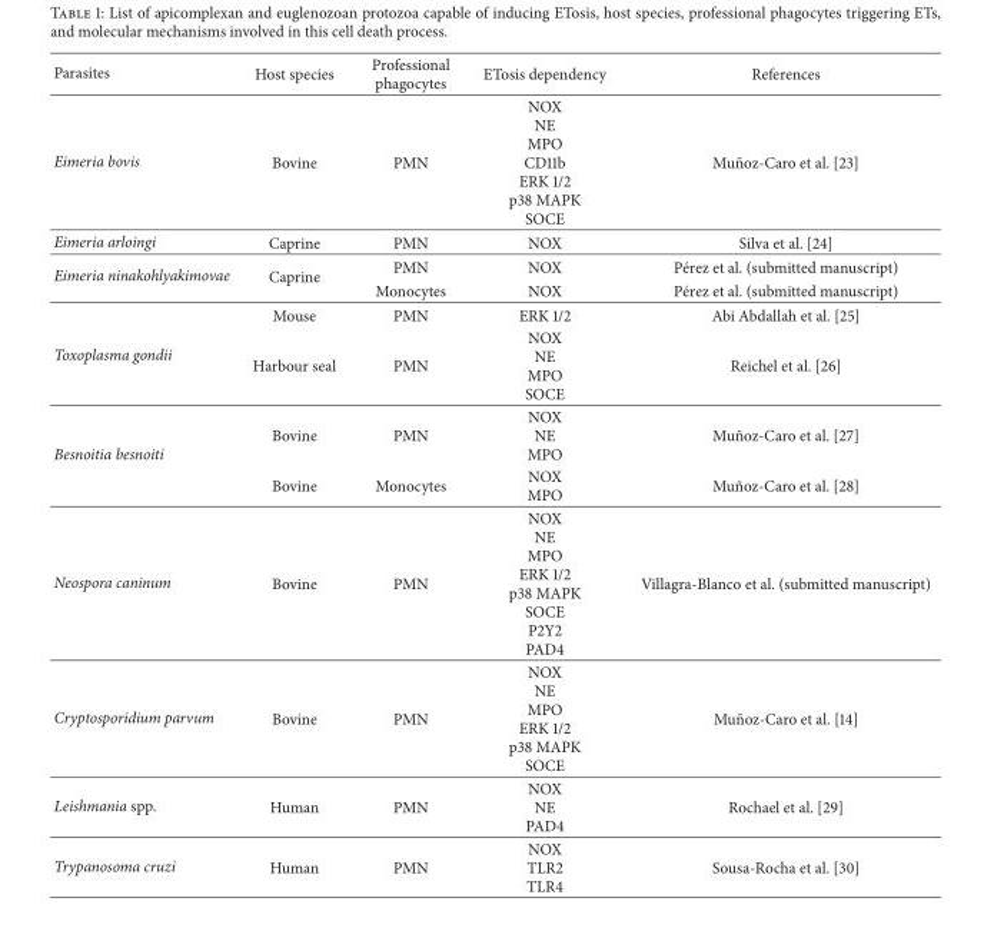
<table><thead><tr><td>Parasites</td><td>Host species</td><td>Professional phagocytes</td><td>ETosis dependency</td><td>References</td></tr></thead><tbody><tr><td>Eimeria bovis</td><td>Bovine</td><td>PMN</td><td>NOX NE MPO CD11b ERK 1/2 p38 MAPK SOCE</td><td>Mu˜noz-Caro et al. [23]</td></tr><tr><td>Eimeria arloingi</td><td>Caprine</td><td>PMN</td><td>NOX</td><td>Silva et al. [24]</td></tr><tr><td rowspan="2">Eimeria ninakohlyakimovae</td><td rowspan="2">Caprine</td><td>PMN</td><td>NOX</td><td>P´erez et al. (submitted manuscript)</td></tr><tr><td>Monocytes</td><td>NOX</td><td>P´erez et al. (submitted manuscript)</td></tr><tr><td rowspan="2">Toxoplasma gondii</td><td>Mouse</td><td>PMN</td><td>ERK 1/2</td><td>Abi Abdallah et al. [25]</td></tr><tr><td>Harbour seal</td><td>PMN</td><td>NOX NE MPO SOCE</td><td>Reichel et al. [26]</td></tr><tr><td rowspan="2">Besnoitia besnoiti</td><td>Bovine</td><td>PMN</td><td>NOX NE MPO</td><td>Mu˜noz-Caro et al. [27]</td></tr><tr><td>Bovine</td><td>Monocytes</td><td>NOX MPO</td><td>Mu˜noz-Caro et al. [28]</td></tr><tr><td>Neospora caninum</td><td>Bovine</td><td>PMN</td><td>NOX NE MPO ERK 1/2 p38 MAPK SOCE P2Y2 PAD4</td><td>Villagra-Blanco et al. (submitted manuscript)</td></tr><tr><td>Cryptosporidium parvum</td><td>Bovine</td><td>PMN</td><td>NOX NE MPO ERK 1/2 p38 MAPK SOCE</td><td>Mu˜noz-Caro et al. [14]</td></tr><tr><td>Leishmania spp.</td><td>Human</td><td>PMN</td><td>NOX NE PAD4</td><td>Rochael et al. [29]</td></tr><tr><td>Trypanosoma cruzi</td><td>Human</td><td>PMN</td><td>NOX TLR2 TLR4</td><td>Sousa-Rocha et al. [30]</td></tr></tbody></table>